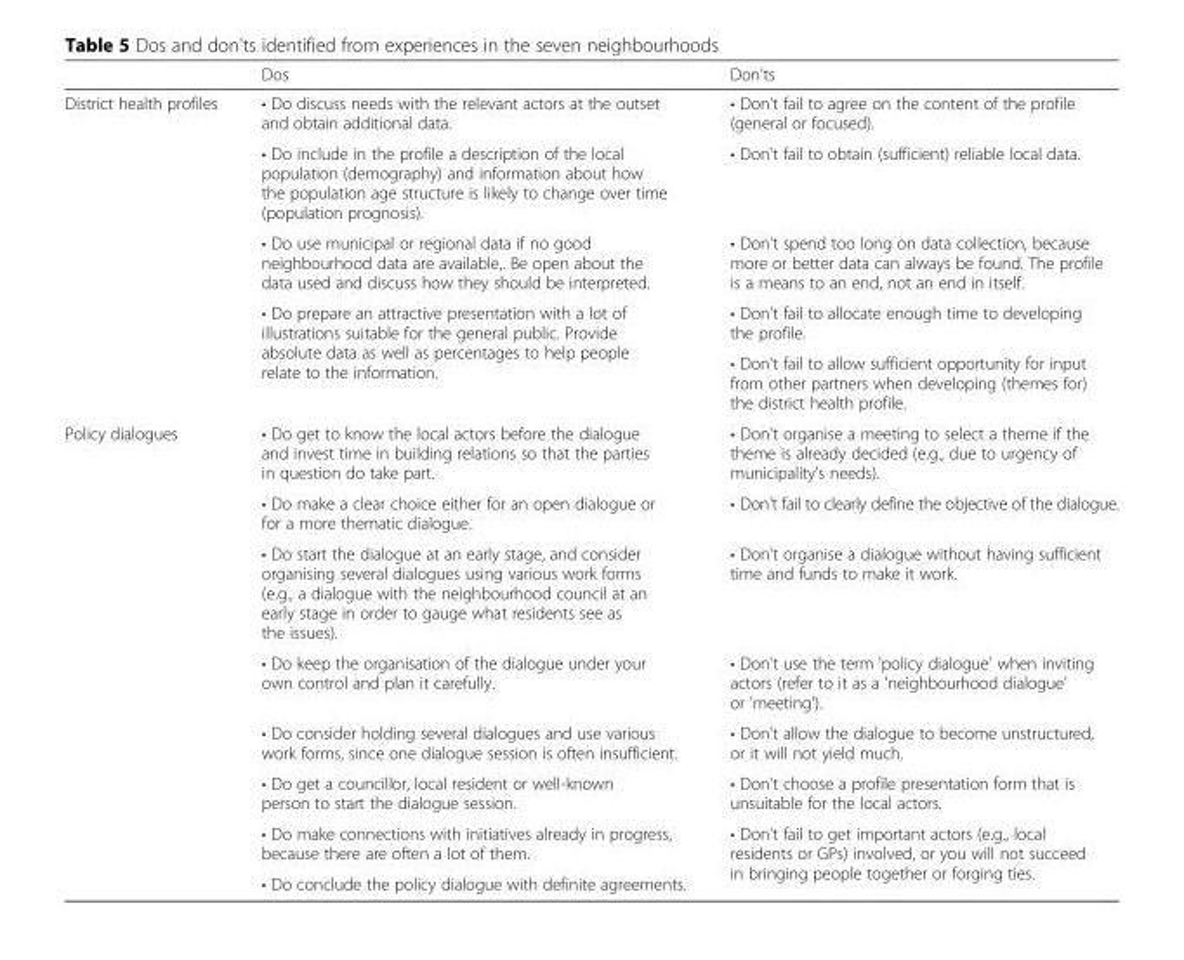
<table><thead><tr><td></td><td>Dos</td><td>Don&#x27;ts</td></tr></thead><tbody><tr><td rowspan="5">District health profiles</td><td>• Do discuss needs with the relevant actors at the outset and obtain additional data.</td><td>• Don&#x27;t fail to agree on the content of the profile (general or focused).</td></tr><tr><td>• Do include in the profile a description of the local population (demography) and information about how the population age structure is likely to change over time (population prognosis).</td><td>• Don&#x27;t fail to obtain (sufficient) reliable local data.</td></tr><tr><td>• Do use municipal or regional data if no good neighbourhood data are available,. Be open about the data used and discuss how they should be interpreted.</td><td>• Don&#x27;t spend too long on data collection, because more or better data can always be found. The profile is a means to an end, not an end in itself.</td></tr><tr><td rowspan="2">• Do prepare an attractive presentation with a lot of illustrations suitable for the general public. Provide absolute data as well as percentages to help people relate to the information.</td><td>• Don&#x27;t fail to allocate enough time to developing the profile.</td></tr><tr><td>• Don&#x27;t fail to allow sufficient opportunity for input from other partners when developing (themes for) the district health profile.</td></tr><tr><td rowspan="8">Policy dialogues</td><td>• Do get to know the local actors before the dialogue and invest time in building relations so that the parties in question do take part.</td><td>• Don&#x27;t organise a meeting to select a theme if the theme is already decided (e.g., due to urgency of municipality&#x27;s needs).</td></tr><tr><td>• Do make a clear choice either for an open dialogue or for a more thematic dialogue.</td><td>• Don&#x27;t fail to clearly define the objective of the dialogue.</td></tr><tr><td>• Do start the dialogue at an early stage, and consider organising several dialogues using various work forms (e.g., a dialogue with the neighbourhood council at an early stage in order to gauge what residents see as the issues).</td><td>• Don&#x27;t organise a dialogue without having sufficient time and funds to make it work.</td></tr><tr><td>• Do keep the organisation of the dialogue under your own control and plan it carefully.</td><td>• Don&#x27;t use the term &#x27;policy dialogue&#x27; when inviting actors (refer to it as a &#x27;neighbourhood dialogue&#x27; or &#x27;meeting&#x27;).</td></tr><tr><td>• Do consider holding several dialogues and use various work forms, since one dialogue session is often insufficient.</td><td>• Don&#x27;t allow the dialogue to become unstructured, or it will not yield much.</td></tr><tr><td>• Do get a councillor, local resident or well-known person to start the dialogue session.</td><td>• Don&#x27;t choose a profile presentation form that is unsuitable for the local actors.</td></tr><tr><td>• Do make connections with initiatives already in progress, because there are often a lot of them.</td><td rowspan="2">• Don&#x27;t fail to get important actors (e.g., local residents or GPs) involved, or you will not succeed in bringing people together or forging ties.</td></tr><tr><td>• Do conclude the policy dialogue with definite agreements.</td></tr></tbody></table>